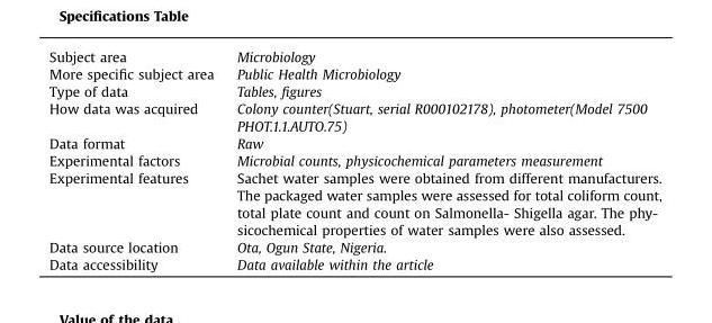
<table><tbody><tr><td>Subject area</td><td>Microbiology</td></tr><tr><td>More specific subject area</td><td>Public Health Microbiology</td></tr><tr><td>Type of data</td><td>Tables, figures</td></tr><tr><td>How data was acquired</td><td>Colony counter(Stuart, serial R000102178), photometer(Model 7500 PHOT.1.1.AUTO.75)</td></tr><tr><td>Data format</td><td>Raw</td></tr><tr><td>Experimental factors</td><td>Microbial counts, physicochemical parameters measurement</td></tr><tr><td>Experimental features</td><td>Sachet water samples were obtained from different manufacturers. The packaged water samples were assessed for total coliform count, total plate count and count on Salmonella- Shigella agar. The phy- sicochemical properties of water samples were also assessed.</td></tr><tr><td>Data source location</td><td>Ota, Ogun State, Nigeria.</td></tr><tr><td>Data accessibility</td><td>Data available within the article</td></tr></tbody></table>